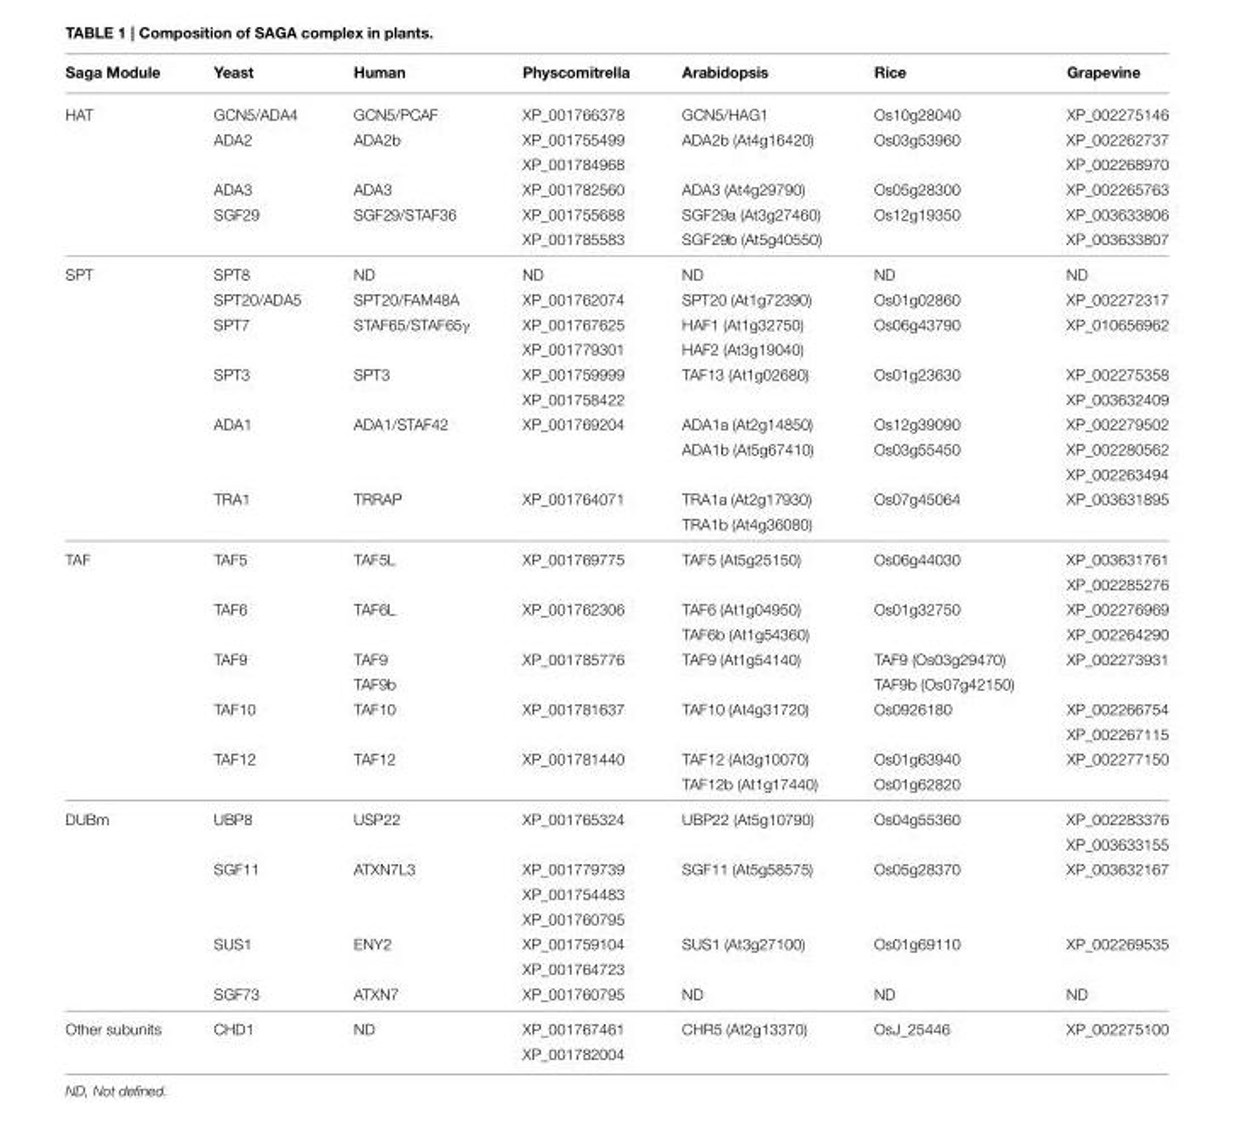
<table><thead><tr><td>Saga Module</td><td>Yeast</td><td>Human</td><td>Physcomitrella</td><td>Arabidopsis</td><td>Rice</td><td>Grapevine</td></tr></thead><tbody><tr><td rowspan="6">HAT</td><td>GCN5/ADA4</td><td>GCN5/PCAF</td><td>XP_001766378</td><td>GCN5/HAG1</td><td>Os10g28040</td><td>XP_002275146</td></tr><tr><td>ADA2</td><td>ADA2b</td><td>XP_001755499</td><td>ADA2b (At4g16420)</td><td>Os03g53960</td><td>XP_002262737</td></tr><tr><td></td><td></td><td>XP_001784968</td><td></td><td></td><td>XP_002268970</td></tr><tr><td>ADA3</td><td>ADA3</td><td>XP_001782560</td><td>ADA3 (At4g29790)</td><td>Os05g28300</td><td>XP_002265763</td></tr><tr><td>SGF29</td><td>SGF29/STAF36</td><td>XP_001755688</td><td>SGF29a (At3g27460)</td><td>Os12g19350</td><td>XP_003633806</td></tr><tr><td></td><td></td><td>XP_001785583</td><td>SGF29b (At5g40550)</td><td></td><td>XP_003633807</td></tr><tr><td rowspan="11">SPT</td><td>SPT8</td><td>ND</td><td>ND</td><td>ND</td><td>ND</td><td>ND</td></tr><tr><td>SPT20/ADA5</td><td>SPT20/FAM48A</td><td>XP_001762074</td><td>SPT20 (At1g72390)</td><td>Os01g02860</td><td>XP_002272317</td></tr><tr><td>SPT7</td><td>STAF65/STAF65γ</td><td>XP_001767625</td><td>HAF1 (At1g32750)</td><td>Os06g43790</td><td>XP_010656962</td></tr><tr><td></td><td></td><td>XP_001779301</td><td>HAF2 (At3g19040)</td><td></td><td></td></tr><tr><td>SPT3</td><td>SPT3</td><td>XP_001759999</td><td>TAF13 (At1g02680)</td><td>Os01g23630</td><td>XP_002275358</td></tr><tr><td></td><td></td><td>XP_001758422</td><td></td><td></td><td>XP_003632409</td></tr><tr><td>ADA1</td><td>ADA1/STAF42</td><td>XP_001769204</td><td>ADA1a (At2g14850)</td><td>Os12g39090</td><td>XP_002279502</td></tr><tr><td></td><td></td><td></td><td>ADA1b (At5g67410)</td><td>Os03g55450</td><td>XP_002280562</td></tr><tr><td></td><td></td><td></td><td></td><td></td><td>XP_002263494</td></tr><tr><td>TRA1</td><td>TRRAP</td><td>XP_001764071</td><td>TRA1a (At2g17930)</td><td>Os07g45064</td><td>XP_003631895</td></tr><tr><td></td><td></td><td></td><td>TRA1b (At4g36080)</td><td></td><td></td></tr><tr><td rowspan="10">TAF</td><td>TAF5</td><td>TAF5L</td><td>XP_001769775</td><td>TAF5 (At5g25150)</td><td>Os06g44030</td><td>XP_003631761</td></tr><tr><td></td><td></td><td></td><td></td><td></td><td>XP_002285276</td></tr><tr><td>TAF6</td><td>TAF6L</td><td>XP_001762306</td><td>TAF6 (At1g04950)</td><td>Os01g32750</td><td>XP_002276969</td></tr><tr><td></td><td></td><td></td><td>TAF6b (At1g54360)</td><td></td><td>XP_002264290</td></tr><tr><td>TAF9</td><td>TAF9</td><td>XP_001785776</td><td>TAF9 (At1g54140)</td><td>TAF9 (Os03g29470)</td><td>XP_002273931</td></tr><tr><td></td><td>TAF9b</td><td></td><td></td><td>TAF9b (Os07g42150)</td><td></td></tr><tr><td>TAF10</td><td>TAF10</td><td>XP_001781637</td><td>TAF10 (At4g31720)</td><td>Os0926180</td><td>XP_002266754</td></tr><tr><td></td><td></td><td></td><td></td><td></td><td>XP_002267115</td></tr><tr><td>TAF12</td><td>TAF12</td><td>XP_001781440</td><td>TAF12 (At3g10070)</td><td>Os01g63940</td><td>XP_002277150</td></tr><tr><td></td><td></td><td></td><td>TAF12b (At1g17440)</td><td>Os01g62820</td><td></td></tr><tr><td rowspan="8">DUBm</td><td>UBP8</td><td>USP22</td><td>XP_001765324</td><td>UBP22 (At5g10790)</td><td>Os04g55360</td><td>XP_002283376</td></tr><tr><td></td><td></td><td></td><td></td><td></td><td>XP_003633155</td></tr><tr><td>SGF11</td><td>ATXN7L3</td><td>XP_001779739</td><td>SGF11 (At5g58575)</td><td>Os05g28370</td><td>XP_003632167</td></tr><tr><td></td><td></td><td>XP_001754483</td><td></td><td></td><td></td></tr><tr><td></td><td></td><td>XP_001760795</td><td></td><td></td><td></td></tr><tr><td>SUS1</td><td>ENY2</td><td>XP_001759104</td><td>SUS1 (At3g27100)</td><td>Os01g69110</td><td>XP_002269535</td></tr><tr><td></td><td></td><td>XP_001764723</td><td></td><td></td><td></td></tr><tr><td>SGF73</td><td>ATXN7</td><td>XP_001760795</td><td>ND</td><td>ND</td><td>ND</td></tr><tr><td rowspan="2">Other subunits</td><td>CHD1</td><td>ND</td><td>XP_001767461</td><td>CHR5 (At2g13370)</td><td>OsJ_25446</td><td>XP_002275100</td></tr><tr><td></td><td></td><td>XP_001782004</td><td></td><td></td><td></td></tr></tbody></table>